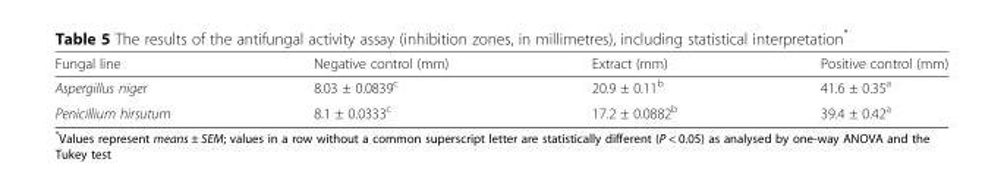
<table><thead><tr><td>Fungal line</td><td>Negative control (mm)</td><td>Extract (mm)</td><td>Positive control (mm)</td></tr></thead><tbody><tr><td>Aspergillus niger</td><td>8.03 ± 0.0839<sup>c</sup></td><td>20.9 ± 0.11<sup>b</sup></td><td>41.6 ± 0.35<sup>a</sup></td></tr><tr><td>Penicillium hirsutum</td><td>8.1 ± 0.0333<sup>c</sup></td><td>17.2 ± 0.0882<sup>b</sup></td><td>39.4 ± 0.42<sup>a</sup></td></tr></tbody></table>